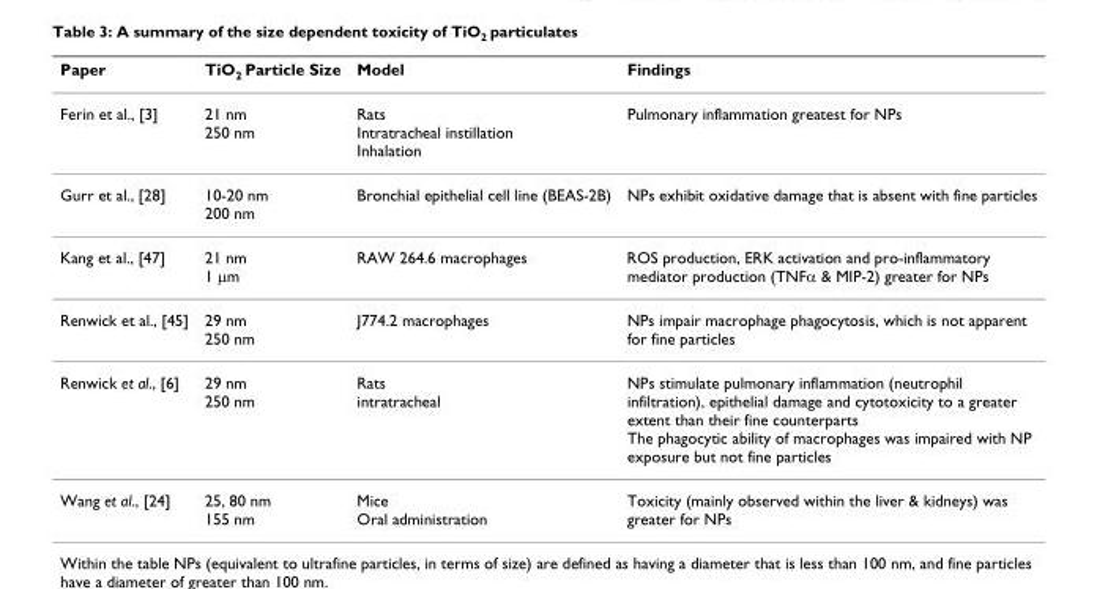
<table><thead><tr><td>Paper</td><td>TiO<sub>2</sub> Particle Size</td><td>Model</td><td>Findings</td></tr></thead><tbody><tr><td>Ferin et al., [3]</td><td>21 nm 250 nm</td><td>Rats Intratracheal instillation Inhalation</td><td>Pulmonary inflammation greatest for NPs</td></tr><tr><td>Gurr et al., [28]</td><td>10-20 nm 200 nm</td><td>Bronchial epithelial cell line (BEAS-2B)</td><td>NPs exhibit oxidative damage that is absent with fine particles</td></tr><tr><td>Kang et al., [47]</td><td>21 nm 1 μm</td><td>RAW 264.6 macrophages</td><td>ROS production, ERK activation and pro-inflammatory mediator production (TNFα &amp; MIP-2) greater for NPs</td></tr><tr><td>Renwick et al., [45]</td><td>29 nm 250 nm</td><td>J774.2 macrophages</td><td>NPs impair macrophage phagocytosis, which is not apparent for fine particles</td></tr><tr><td>Renwick et al., [6]</td><td>29 nm 250 nm</td><td>Rats intratracheal</td><td>NPs stimulate pulmonary inflammation (neutrophil infiltration), epithelial damage and cytotoxicity to a greater extent than their fine counterparts The phagocytic ability of macrophages was impaired with NP exposure but not fine particles</td></tr><tr><td>Wang et al., [24]</td><td>25, 80 nm 155 nm</td><td>Mice Oral administration</td><td>Toxicity (mainly observed within the liver &amp; kidneys) was greater for NPs</td></tr></tbody></table>